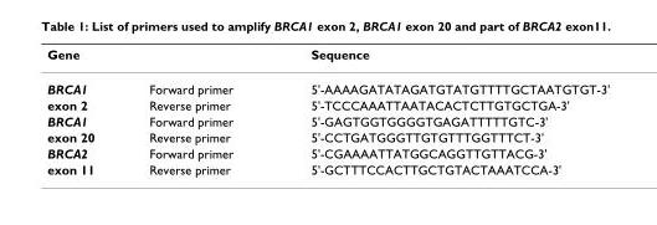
<table><thead><tr><td>Gene</td><td></td><td>Sequence</td></tr></thead><tbody><tr><td>BRCA1</td><td>Forward primer</td><td>5&#x27;-AAAAGATATAGATGTATGTTTTGCTAATGTGT-3&#x27;</td></tr><tr><td>exon 2</td><td>Reverse primer</td><td>5&#x27;-TCCCAAATTAATACACTCTTGTGCTGA-3&#x27;</td></tr><tr><td>BRCA1</td><td>Forward primer</td><td>5&#x27;-GAGTGGTGGGGTGAGATTTTTGTC-3&#x27;</td></tr><tr><td>exon 20</td><td>Reverse primer</td><td>5&#x27;-CCTGATGGGTTGTGTTTGGTTTCT-3&#x27;</td></tr><tr><td>BRCA2</td><td>Forward primer</td><td>5&#x27;-CGAAAATTATGGCAGGTTGTTACG-3&#x27;</td></tr><tr><td>exon 11</td><td>Reverse primer</td><td>5&#x27;-GCTTTCCACTTGCTGTACTAAATCCA-3&#x27;</td></tr></tbody></table>